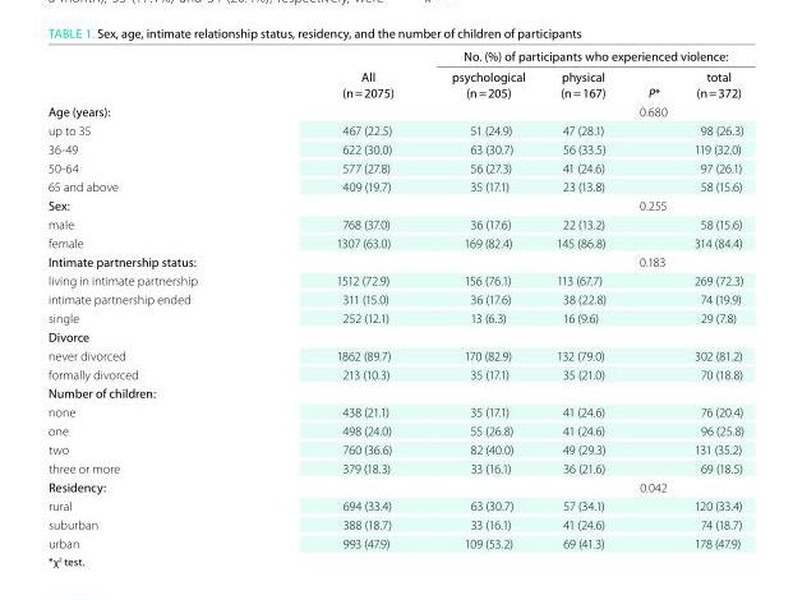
<table><thead><tr><td rowspan="2"></td><td rowspan="2">all (n = 2075)</td><td colspan="4">No. (%) of participants who experienced violence:</td></tr><tr><td>psychological (n = 205)</td><td>physical (n = 167)</td><td>P*</td><td>total (n = 372)</td></tr></thead><tbody><tr><td>age (years):</td><td></td><td></td><td></td><td>0.680</td><td></td></tr><tr><td>up to 35</td><td>467 (22.5)</td><td>51 (24.9)</td><td>47 (28.1)</td><td></td><td>98 (26.3)</td></tr><tr><td>36-49</td><td>622 (30.0)</td><td>63 (30.7)</td><td>56 (33.5)</td><td></td><td>119 (32.0)</td></tr><tr><td>50-64</td><td>577 (27.8)</td><td>56 (27.3)</td><td>41 (24.6)</td><td></td><td>97 (26.1)</td></tr><tr><td>65 and above</td><td>409 (19.7)</td><td>35 (17.1)</td><td>23 (13.8)</td><td></td><td>58 (15.6)</td></tr><tr><td>Sex:</td><td></td><td></td><td></td><td>0.255</td><td></td></tr><tr><td>male</td><td>768 (37.0)</td><td>36 (17.6)</td><td>22 (13.2)</td><td></td><td>58 (15.6)</td></tr><tr><td>female</td><td>1307 (63.0)</td><td>169 (82.4)</td><td>145 (86.8)</td><td></td><td>314 (84.4)</td></tr><tr><td>Intimate partnership status:</td><td></td><td></td><td></td><td>0.183</td><td></td></tr><tr><td>living in intimate partnership</td><td>1512 (72.9)</td><td>156 (76.1)</td><td>113 (67.7)</td><td></td><td>269 (72.3)</td></tr><tr><td>intimate partnership ended</td><td>311 (15.0)</td><td>36 (17.6)</td><td>38 (22.8)</td><td></td><td>74 (19.9)</td></tr><tr><td>single</td><td>252 (12.1)</td><td>13 (6.3)</td><td>16 (9.6)</td><td></td><td>29 (7.8)</td></tr><tr><td colspan="6">divorce</td></tr><tr><td>never divorced</td><td>1862 (89.7)</td><td>170 (82.9)</td><td>132 (79.0)</td><td></td><td>302 (81.2)</td></tr><tr><td>formally divorced</td><td>213 (10.3)</td><td>35 (17.1)</td><td>35 (21.0)</td><td></td><td>70 (18.8)</td></tr><tr><td colspan="6">Number of children:</td></tr><tr><td>none</td><td>438 (21.1)</td><td>35 (17.1)</td><td>41 (24.6)</td><td></td><td>76 (20.4)</td></tr><tr><td>one</td><td>498 (24.0)</td><td>55 (26.8)</td><td>41 (24.6)</td><td></td><td>96 (25.8)</td></tr><tr><td>two</td><td>760 (36.6)</td><td>82 (40.0)</td><td>49 (29.3)</td><td></td><td>131 (35.2)</td></tr><tr><td>three or more</td><td>379 (18.3)</td><td>33 (16.1)</td><td>36 (21.6)</td><td></td><td>69 (18.5)</td></tr><tr><td>Residency:</td><td></td><td></td><td></td><td>0.042</td><td></td></tr><tr><td>rural</td><td>694 (33.4)</td><td>63 (30.7)</td><td>57 (34.1)</td><td></td><td>120 (33.4)</td></tr><tr><td>suburban</td><td>388 (18.7)</td><td>33 (16.1)</td><td>41 (24.6)</td><td></td><td>74 (18.7)</td></tr><tr><td>urban</td><td>993 (47.9)</td><td>109 (53.2)</td><td>69 (41.3)</td><td></td><td>178 (47.9)</td></tr></tbody></table>